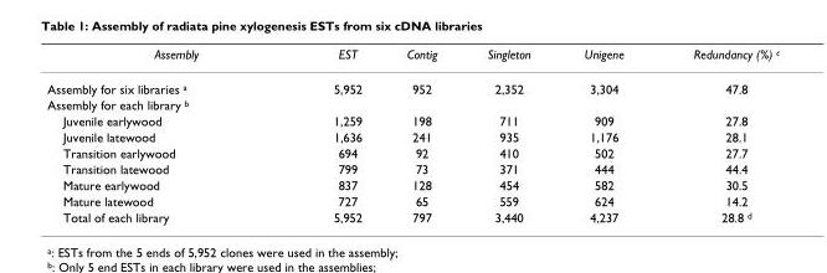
<table><thead><tr><td>Assembly</td><td>EST</td><td>Contig</td><td>Singleton</td><td>Unigene</td><td>Redundancy (%) <sup>c</sup></td></tr></thead><tbody><tr><td>Assembly for six libraries <sup>a</sup></td><td>5,952</td><td>952</td><td>2,352</td><td>3,304</td><td>47.8</td></tr><tr><td colspan="6">Assembly for each library <sup>b</sup></td></tr><tr><td>Juvenile earlywood</td><td>1,259</td><td>198</td><td>711</td><td>909</td><td>27.8</td></tr><tr><td>Juvenile latewood</td><td>1,636</td><td>241</td><td>935</td><td>1,176</td><td>28.1</td></tr><tr><td>Transition earlywood</td><td>694</td><td>92</td><td>410</td><td>502</td><td>27.7</td></tr><tr><td>Transition latewood</td><td>799</td><td>73</td><td>371</td><td>444</td><td>44.4</td></tr><tr><td>Mature earlywood</td><td>837</td><td>128</td><td>454</td><td>582</td><td>30.5</td></tr><tr><td>Mature latewood</td><td>727</td><td>65</td><td>559</td><td>624</td><td>14.2</td></tr><tr><td>Total of each library</td><td>5,952</td><td>797</td><td>3,440</td><td>4,237</td><td>28.8 <sup>d</sup></td></tr></tbody></table>